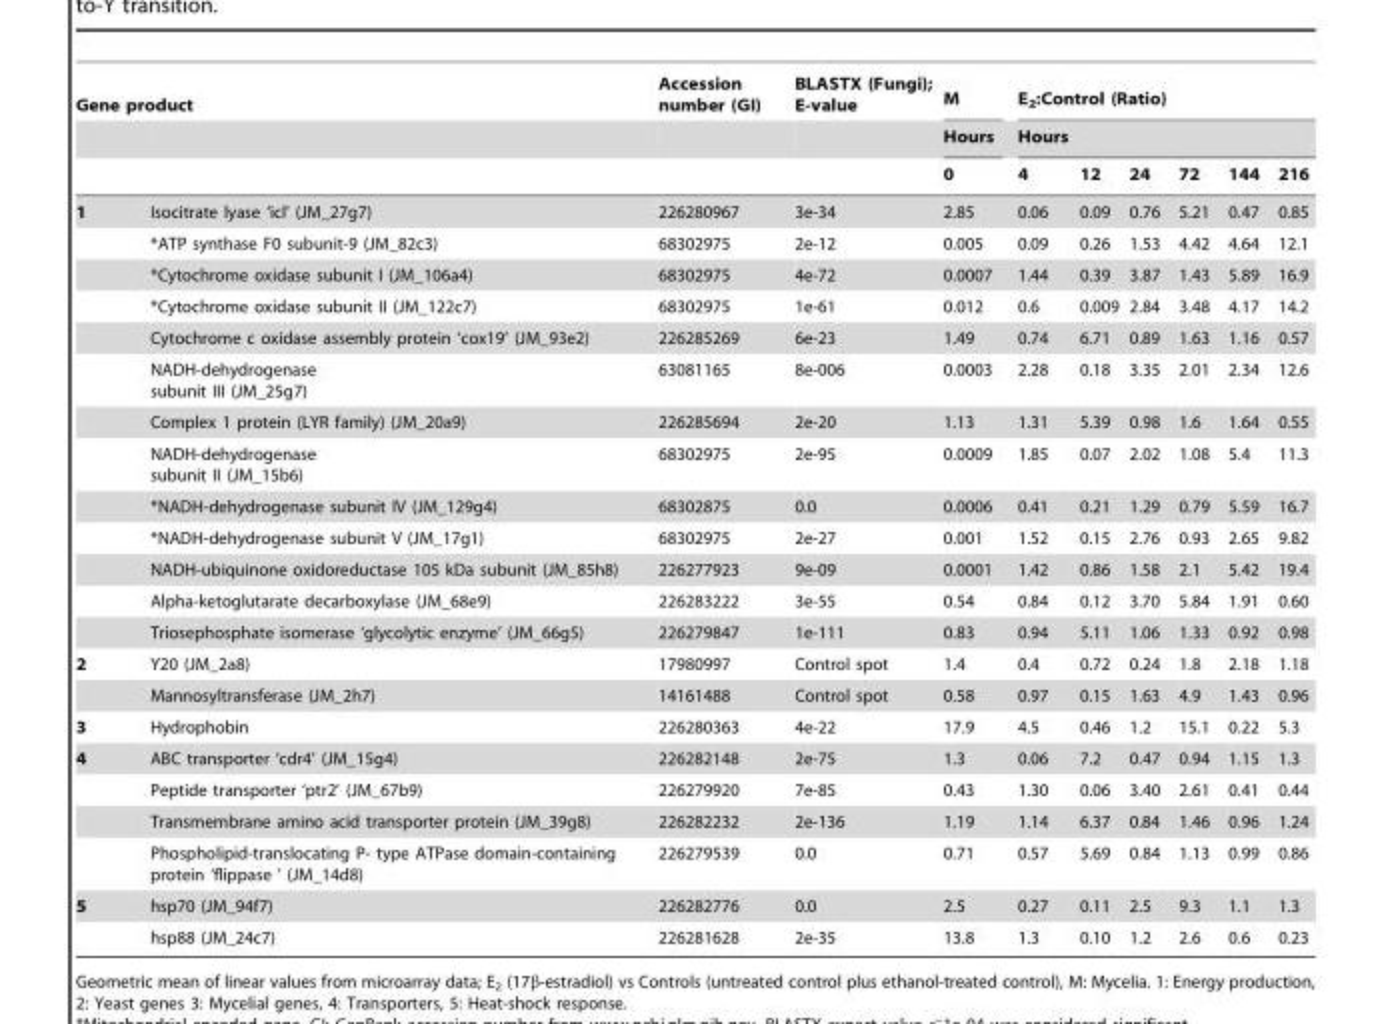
<table><thead><tr><td colspan="2">Gene product</td><td rowspan="3">Accession number (GI)</td><td rowspan="3">BLASTX (Fungi); E-value</td><td rowspan="3">M Hours 0</td><td rowspan="2" colspan="6">E<sub>2</sub>:Control (Ratio) Hours</td></tr><tr><td rowspan="2"></td><td rowspan="2"></td></tr><tr><td>4</td><td>12</td><td>24</td><td>72</td><td>144</td><td>216</td></tr></thead><tbody><tr><td rowspan="13">1</td><td>Isocitrate lyase ‘icl’ (JM_27g7)</td><td>226280967</td><td>3e-34</td><td>2.85</td><td>0.06</td><td>0.09</td><td>0.76</td><td>5.21</td><td>0.47</td><td>0.85</td></tr><tr><td>*ATP synthase F0 subunit-9 (JM_82c3)</td><td>68302975</td><td>2e-12</td><td>0.005</td><td>0.09</td><td>0.26</td><td>1.53</td><td>4.42</td><td>4.64</td><td>12.1</td></tr><tr><td>*Cytochrome oxidase subunit I (JM_106a4)</td><td>68302975</td><td>4e-72</td><td>0.0007</td><td>1.44</td><td>0.39</td><td>3.87</td><td>1.43</td><td>5.89</td><td>16.9</td></tr><tr><td>*Cytochrome oxidase subunit II (JM_122c7)</td><td>68302975</td><td>1e-61</td><td>0.012</td><td>0.6</td><td>0.009</td><td>2.84</td><td>3.48</td><td>4.17</td><td>14.2</td></tr><tr><td>Cytochrome c oxidase assembly protein ‘cox19’ (JM_93e2)</td><td>226285269</td><td>6e-23</td><td>1.49</td><td>0.74</td><td>6.71</td><td>0.89</td><td>1.63</td><td>1.16</td><td>0.57</td></tr><tr><td>NADH-dehydrogenase subunit III (JM_25g7)</td><td>63081165</td><td>8e-006</td><td>0.0003</td><td>2.28</td><td>0.18</td><td>3.35</td><td>2.01</td><td>2.34</td><td>12.6</td></tr><tr><td>Complex 1 protein (LYR family) (JM_20a9)</td><td>226285694</td><td>2e-20</td><td>1.13</td><td>1.31</td><td>5.39</td><td>0.98</td><td>1.6</td><td>1.64</td><td>0.55</td></tr><tr><td>NADH-dehydrogenase subunit II (JM_15b6)</td><td>68302975</td><td>2e-95</td><td>0.0009</td><td>1.85</td><td>0.07</td><td>2.02</td><td>1.08</td><td>5.4</td><td>11.3</td></tr><tr><td>*NADH-dehydrogenase subunit IV (JM_129g4)</td><td>68302875</td><td>0.0</td><td>0.0006</td><td>0.41</td><td>0.21</td><td>1.29</td><td>0.79</td><td>5.59</td><td>16.7</td></tr><tr><td>*NADH-dehydrogenase subunit V (JM_17g1)</td><td>68302975</td><td>2e-27</td><td>0.001</td><td>1.52</td><td>0.15</td><td>2.76</td><td>0.93</td><td>2.65</td><td>9.82</td></tr><tr><td>NADH-ubiquinone oxidoreductase 105 kDa subunit (JM_85h8)</td><td>226277923</td><td>9e-09</td><td>0.0001</td><td>1.42</td><td>0.86</td><td>1.58</td><td>2.1</td><td>5.42</td><td>19.4</td></tr><tr><td>Alpha-ketoglutarate decarboxylase (JM_68e9)</td><td>226283222</td><td>3e-55</td><td>0.54</td><td>0.84</td><td>0.12</td><td>3.70</td><td>5.84</td><td>1.91</td><td>0.60</td></tr><tr><td>Triosephosphate isomerase ‘glycolytic enzyme’ (JM_66g5)</td><td>226279847</td><td>1e-111</td><td>0.83</td><td>0.94</td><td>5.11</td><td>1.06</td><td>1.33</td><td>0.92</td><td>0.98</td></tr><tr><td rowspan="2">2</td><td>Y20 (JM_2a8)</td><td>17980997</td><td>Control spot</td><td>1.4</td><td>0.4</td><td>0.72</td><td>0.24</td><td>1.8</td><td>2.18</td><td>1.18</td></tr><tr><td>Mannosyltransferase (JM_2h7)</td><td>14161488</td><td>Control spot</td><td>0.58</td><td>0.97</td><td>0.15</td><td>1.63</td><td>4.9</td><td>1.43</td><td>0.96</td></tr><tr><td>3</td><td>Hydrophobin</td><td>226280363</td><td>4e-22</td><td>17.9</td><td>4.5</td><td>0.46</td><td>1.2</td><td>15.1</td><td>0.22</td><td>5.3</td></tr><tr><td rowspan="4">4</td><td>ABC transporter ‘cdr4’ (JM_15g4)</td><td>226282148</td><td>2e-75</td><td>1.3</td><td>0.06</td><td>7.2</td><td>0.47</td><td>0.94</td><td>1.15</td><td>1.3</td></tr><tr><td>Peptide transporter ‘ptr2’ (JM_67b9)</td><td>226279920</td><td>7e-85</td><td>0.43</td><td>1.30</td><td>0.06</td><td>3.40</td><td>2.61</td><td>0.41</td><td>0.44</td></tr><tr><td>Transmembrane amino acid transporter protein (JM_39g8)</td><td>226282232</td><td>2e-136</td><td>1.19</td><td>1.14</td><td>6.37</td><td>0.84</td><td>1.46</td><td>0.96</td><td>1.24</td></tr><tr><td>Phospholipid-translocating P- type ATPase domain-containing protein ‘flippase ’ (JM_14d8)</td><td>226279539</td><td>0.0</td><td>0.71</td><td>0.57</td><td>5.69</td><td>0.84</td><td>1.13</td><td>0.99</td><td>0.86</td></tr><tr><td rowspan="2">5</td><td>hsp70 (JM_94f7)</td><td>226282776</td><td>0.0</td><td>2.5</td><td>0.27</td><td>0.11</td><td>2.5</td><td>9.3</td><td>1.1</td><td>1.3</td></tr><tr><td>hsp88 (JM_24c7)</td><td>226281628</td><td>2e-35</td><td>13.8</td><td>1.3</td><td>0.10</td><td>1.2</td><td>2.6</td><td>0.6</td><td>0.23</td></tr></tbody></table>